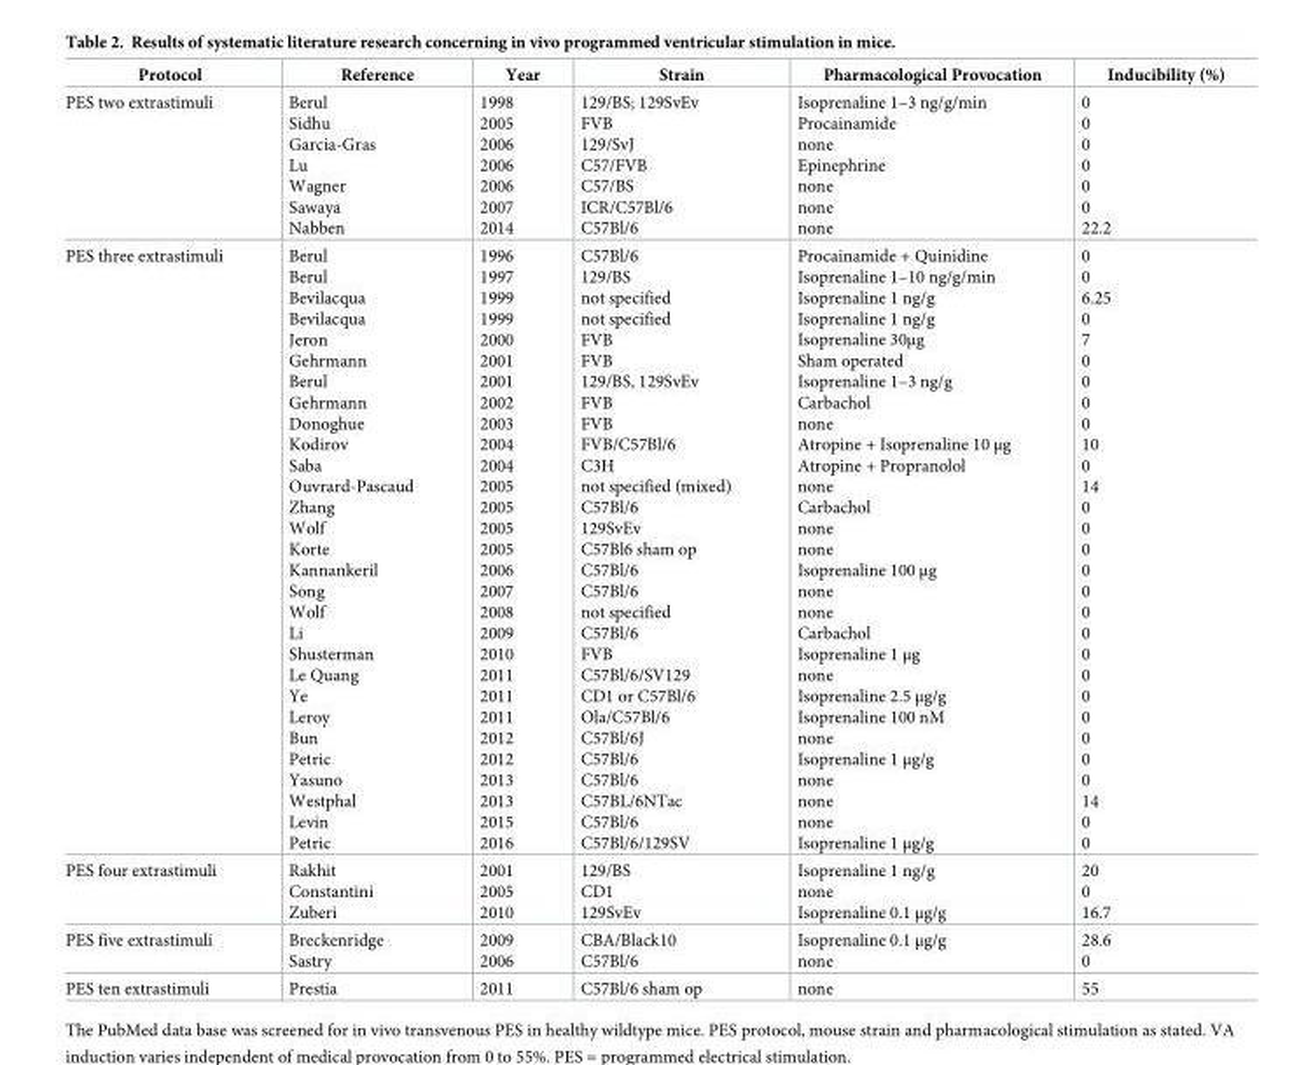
<table><thead><tr><td>Protocol</td><td>Reference</td><td>Year</td><td>Strain</td><td>Pharmacological Provocation</td><td>Inducibility (%)</td></tr></thead><tbody><tr><td>PES two extrastimuli</td><td>Berul Sidhu Garcia-Gras Lu Wagner Sawaya Nabben</td><td>1998 2005 2006 2006 2006 2007 2014</td><td>129/BS; 129SvEv FVB 129/SvJ C57/FVB C57/BS ICR/C57Bl/6 C57Bl/6</td><td>Isoprenaline 1–3 ng/g/min Procainamide none Epinephrine none none none</td><td>0 0 0 0 0 0 22.2</td></tr><tr><td>PES three extrastimuli</td><td>Berul Berul Bevilacqua Bevilacqua Jeron Gehrmann Berul Gehrmann Donoghue Kodirov Saba Ouvrard-Pascaud Zhang Wolf Korte Kannankeril Song Wolf Li Shusterman Le Quang Ye Leroy Bun Petric Yasuno Westphal Levin Petric</td><td>1996 1997 1999 1999 2000 2001 2001 2002 2003 2004 2004 2005 2005 2005 2005 2006 2007 2008 2009 2010 2011 2011 2011 2012 2012 2013 2013 2015 2016</td><td>C57Bl/6 129/BS not specified not specified FVB FVB 129/BS, 129SvEv FVB FVB FVB/C57Bl/6 C3H not specified (mixed) C57Bl/6 129SvEv C57Bl6 sham op C57Bl/6 C57Bl/6 not specified C57Bl/6 FVB C57Bl/6/SV129 CD1 or C57Bl/6 Ola/C57Bl/6 C57Bl/6J C57Bl/6 C57Bl/6 C57BL/6NTac C57Bl/6 C57Bl/6/129SV</td><td>Procainamide + Quinidine Isoprenaline 1–10 ng/g/min Isoprenaline 1 ng/g Isoprenaline 1 ng/g Isoprenaline 30μg Sham operated Isoprenaline 1–3 ng/g Carbachol none Atropine + Isoprenaline 10 μg Atropine + Propranolol none Carbachol none none Isoprenaline 100 μg none none Carbachol Isoprenaline 1 μg none Isoprenaline 2.5 μg/g Isoprenaline 100 nM none Isoprenaline 1 μg/g none none none Isoprenaline 1 μg/g</td><td>0 0 6.25 0 7 0 0 0 0 10 0 14 0 0 0 0 0 0 0 0 0 0 0 0 0 0 14 0 0</td></tr><tr><td>PES four extrastimuli</td><td>Rakhit Constantini Zuberi</td><td>2001 2005 2010</td><td>129/BS CD1 129SvEv</td><td>Isoprenaline 1 ng/g none Isoprenaline 0.1 μg/g</td><td>20 0 16.7</td></tr><tr><td>PES five extrastimuli</td><td>Breckenridge Sastry</td><td>2009 2006</td><td>CBA/Black10 C57Bl/6</td><td>Isoprenaline 0.1 μg/g none</td><td>28.6 0</td></tr><tr><td>PES ten extrastimuli</td><td>Prestia</td><td>2011</td><td>C57Bl/6 sham op</td><td>none</td><td>55</td></tr></tbody></table>